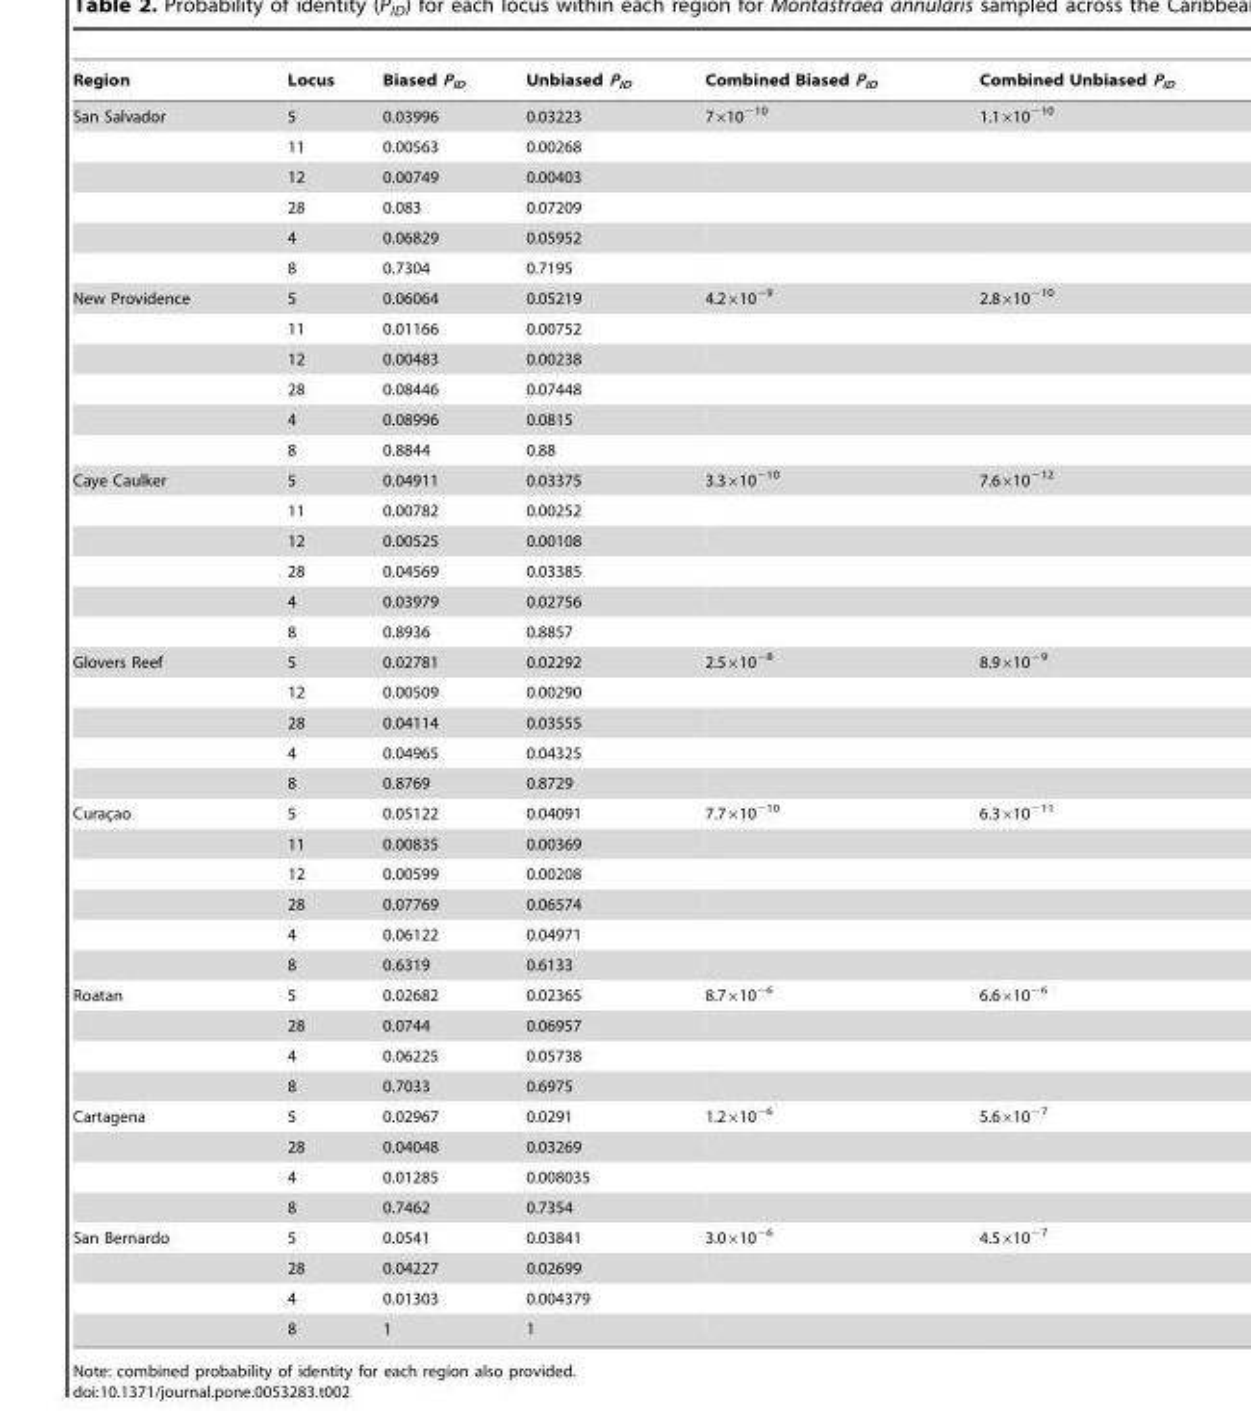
<table><thead><tr><td>Region</td><td>Locus</td><td>Biased P<sub>ID</sub></td><td>Unbiased P<sub>ID</sub></td><td>Combined Biased P<sub>ID</sub></td><td>Combined Unbiased P<sub>ID</sub></td></tr></thead><tbody><tr><td rowspan="6">San Salvador</td><td>5</td><td>0.03996</td><td>0.03223</td><td>7×10<sup>−10</sup></td><td>1.1×10<sup>−10</sup></td></tr><tr><td>11</td><td>0.00563</td><td>0.00268</td><td></td><td></td></tr><tr><td>12</td><td>0.00749</td><td>0.00403</td><td></td><td></td></tr><tr><td>28</td><td>0.083</td><td>0.07209</td><td></td><td></td></tr><tr><td>4</td><td>0.06829</td><td>0.05952</td><td></td><td></td></tr><tr><td>8</td><td>0.7304</td><td>0.7195</td><td></td><td></td></tr><tr><td rowspan="6">New Providence</td><td>5</td><td>0.06064</td><td>0.05219</td><td>4.2×10<sup>−9</sup></td><td>2.8×10<sup>−10</sup></td></tr><tr><td>11</td><td>0.01166</td><td>0.00752</td><td></td><td></td></tr><tr><td>12</td><td>0.00483</td><td>0.00238</td><td></td><td></td></tr><tr><td>28</td><td>0.08446</td><td>0.07448</td><td></td><td></td></tr><tr><td>4</td><td>0.08996</td><td>0.0815</td><td></td><td></td></tr><tr><td>8</td><td>0.8844</td><td>0.88</td><td></td><td></td></tr><tr><td rowspan="6">Caye Caulker</td><td>5</td><td>0.04911</td><td>0.03375</td><td>3.3×10<sup>−10</sup></td><td>7.6×10<sup>−12</sup></td></tr><tr><td>11</td><td>0.00782</td><td>0.00252</td><td></td><td></td></tr><tr><td>12</td><td>0.00525</td><td>0.00108</td><td></td><td></td></tr><tr><td>28</td><td>0.04569</td><td>0.03385</td><td></td><td></td></tr><tr><td>4</td><td>0.03979</td><td>0.02756</td><td></td><td></td></tr><tr><td>8</td><td>0.8936</td><td>0.8857</td><td></td><td></td></tr><tr><td rowspan="5">Glovers Reef</td><td>5</td><td>0.02781</td><td>0.02292</td><td>2.5×10<sup>−8</sup></td><td>8.9×10<sup>−9</sup></td></tr><tr><td>12</td><td>0.00509</td><td>0.00290</td><td></td><td></td></tr><tr><td>28</td><td>0.04114</td><td>0.03555</td><td></td><td></td></tr><tr><td>4</td><td>0.04965</td><td>0.04325</td><td></td><td></td></tr><tr><td>8</td><td>0.8769</td><td>0.8729</td><td></td><td></td></tr><tr><td rowspan="6">Curac¸ao</td><td>5</td><td>0.05122</td><td>0.04091</td><td>7.7×10<sup>−10</sup></td><td>6.3×10<sup>−11</sup></td></tr><tr><td>11</td><td>0.00835</td><td>0.00369</td><td></td><td></td></tr><tr><td>12</td><td>0.00599</td><td>0.00208</td><td></td><td></td></tr><tr><td>28</td><td>0.07769</td><td>0.06574</td><td></td><td></td></tr><tr><td>4</td><td>0.06122</td><td>0.04971</td><td></td><td></td></tr><tr><td>8</td><td>0.6319</td><td>0.6133</td><td></td><td></td></tr><tr><td rowspan="4">Roatan</td><td>5</td><td>0.02682</td><td>0.02365</td><td>8.7×10<sup>−6</sup></td><td>6.6×10<sup>−6</sup></td></tr><tr><td>28</td><td>0.0744</td><td>0.06957</td><td></td><td></td></tr><tr><td>4</td><td>0.06225</td><td>0.05738</td><td></td><td></td></tr><tr><td>8</td><td>0.7033</td><td>0.6975</td><td></td><td></td></tr><tr><td rowspan="4">Cartagena</td><td>5</td><td>0.02967</td><td>0.0291</td><td>1.2×10<sup>−6</sup></td><td>5.6×10<sup>−7</sup></td></tr><tr><td>28</td><td>0.04048</td><td>0.03269</td><td></td><td></td></tr><tr><td>4</td><td>0.01285</td><td>0.008035</td><td></td><td></td></tr><tr><td>8</td><td>0.7462</td><td>0.7354</td><td></td><td></td></tr><tr><td rowspan="4">San Bernardo</td><td>5</td><td>0.0541</td><td>0.03841</td><td>3.0×10<sup>−6</sup></td><td>4.5×10<sup>−7</sup></td></tr><tr><td>28</td><td>0.04227</td><td>0.02699</td><td></td><td></td></tr><tr><td>4</td><td>0.01303</td><td>0.004379</td><td></td><td></td></tr><tr><td>8</td><td>1</td><td>1</td><td></td><td></td></tr></tbody></table>